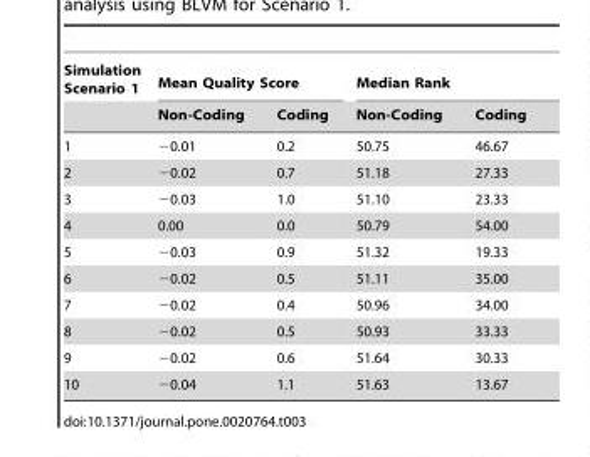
<table><thead><tr><td rowspan="2">Simulation Scenario 1</td><td colspan="2">Mean Quality Score</td><td colspan="2">Median Rank</td></tr><tr><td>Non-Coding</td><td>Coding</td><td>Non-Coding</td><td>Coding</td></tr></thead><tbody><tr><td>1</td><td>−0.01</td><td>0.2</td><td>50.75</td><td>46.67</td></tr><tr><td>2</td><td>−0.02</td><td>0.7</td><td>51.18</td><td>27.33</td></tr><tr><td>3</td><td>−0.03</td><td>1.0</td><td>51.10</td><td>23.33</td></tr><tr><td>4</td><td>0.00</td><td>0.0</td><td>50.79</td><td>54.00</td></tr><tr><td>5</td><td>−0.03</td><td>0.9</td><td>51.32</td><td>19.33</td></tr><tr><td>6</td><td>−0.02</td><td>0.5</td><td>51.11</td><td>35.00</td></tr><tr><td>7</td><td>−0.02</td><td>0.4</td><td>50.96</td><td>34.00</td></tr><tr><td>8</td><td>−0.02</td><td>0.5</td><td>50.93</td><td>33.33</td></tr><tr><td>9</td><td>−0.02</td><td>0.6</td><td>51.64</td><td>30.33</td></tr><tr><td>10</td><td>−0.04</td><td>1.1</td><td>51.63</td><td>13.67</td></tr></tbody></table>